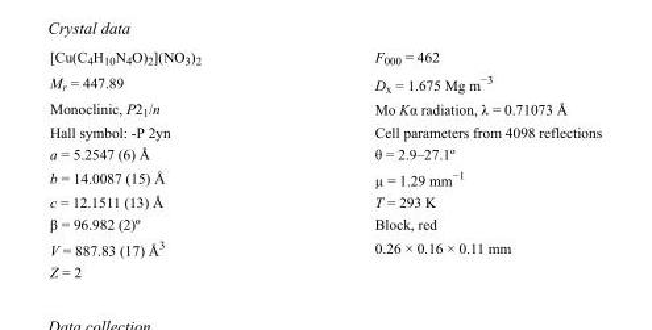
<table><tbody><tr><td>[Cu(C<sub>4</sub>H<sub>10</sub>N<sub>4</sub>O)<sub>2</sub>](NO<sub>3</sub>)<sub>2</sub></td><td>F000 = 462</td></tr><tr><td>M<sub>r</sub> = 447.89</td><td>D<sub>x</sub> = 1.675 Mg m<sup>−3</sup></td></tr><tr><td>Monoclinic, P2<sub>1</sub>/n</td><td>Mo Kα radiation, λ = 0.71073 Å</td></tr><tr><td>Hall symbol: -P 2yn</td><td>Cell parameters from 4098 reflections</td></tr><tr><td>a = 5.2547 (6) Å</td><td>θ = 2.9–27.1º</td></tr><tr><td>b = 14.0087 (15) Å</td><td>µ = 1.29 mm<sup>−1</sup></td></tr><tr><td>c = 12.1511 (13) Å</td><td>T = 293 K</td></tr><tr><td>β = 96.982 (2)º</td><td>Block, red</td></tr><tr><td>V = 887.83 (17) Å<sup>3</sup></td><td>0.26 × 0.16 × 0.11 mm</td></tr><tr><td>Z = 2</td><td></td></tr></tbody></table>